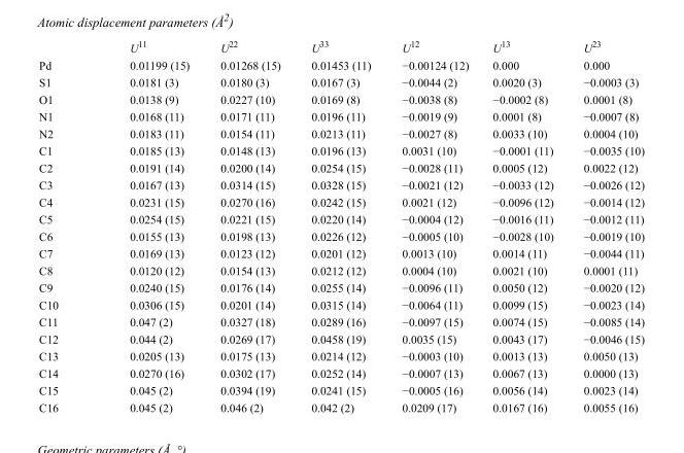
<table><thead><tr><td></td><td>U<sup>11</sup></td><td>U<sup>22</sup></td><td>U<sup>33</sup></td><td>U<sup>12</sup></td><td>U<sup>13</sup></td><td>U<sup>23</sup></td></tr></thead><tbody><tr><td>Pd</td><td>0.01199 (15)</td><td>0.01268 (15)</td><td>0.01453 (11)</td><td>−0.00124 (12)</td><td>0.000</td><td>0.000</td></tr><tr><td>S1</td><td>0.0181 (3)</td><td>0.0180 (3)</td><td>0.0167 (3)</td><td>−0.0044 (2)</td><td>0.0020 (3)</td><td>−0.0003 (3)</td></tr><tr><td>O1</td><td>0.0138 (9)</td><td>0.0227 (10)</td><td>0.0169 (8)</td><td>−0.0038 (8)</td><td>−0.0002 (8)</td><td>0.0001 (8)</td></tr><tr><td>N1</td><td>0.0168 (11)</td><td>0.0171 (11)</td><td>0.0196 (11)</td><td>−0.0019 (9)</td><td>0.0001 (8)</td><td>−0.0007 (8)</td></tr><tr><td>N2</td><td>0.0183 (11)</td><td>0.0154 (11)</td><td>0.0213 (11)</td><td>−0.0027 (8)</td><td>0.0033 (10)</td><td>0.0004 (10)</td></tr><tr><td>C1</td><td>0.0185 (13)</td><td>0.0148 (13)</td><td>0.0196 (13)</td><td>0.0031 (10)</td><td>−0.0001 (11)</td><td>−0.0035 (10)</td></tr><tr><td>C2</td><td>0.0191 (14)</td><td>0.0200 (14)</td><td>0.0254 (15)</td><td>−0.0028 (11)</td><td>0.0005 (12)</td><td>0.0022 (12)</td></tr><tr><td>C3</td><td>0.0167 (13)</td><td>0.0314 (15)</td><td>0.0328 (15)</td><td>−0.0021 (12)</td><td>−0.0033 (12)</td><td>−0.0026 (12)</td></tr><tr><td>C4</td><td>0.0231 (15)</td><td>0.0270 (16)</td><td>0.0242 (15)</td><td>0.0021 (12)</td><td>−0.0096 (12)</td><td>−0.0014 (12)</td></tr><tr><td>C5</td><td>0.0254 (15)</td><td>0.0221 (15)</td><td>0.0220 (14)</td><td>−0.0004 (12)</td><td>−0.0016 (11)</td><td>−0.0012 (11)</td></tr><tr><td>C6</td><td>0.0155 (13)</td><td>0.0198 (13)</td><td>0.0226 (12)</td><td>−0.0005 (10)</td><td>−0.0028 (10)</td><td>−0.0019 (10)</td></tr><tr><td>C7</td><td>0.0169 (13)</td><td>0.0123 (12)</td><td>0.0201 (12)</td><td>0.0013 (10)</td><td>0.0014 (11)</td><td>−0.0044 (11)</td></tr><tr><td>C8</td><td>0.0120 (12)</td><td>0.0154 (13)</td><td>0.0212 (12)</td><td>0.0004 (10)</td><td>0.0021 (10)</td><td>0.0001 (11)</td></tr><tr><td>C9</td><td>0.0240 (15)</td><td>0.0176 (14)</td><td>0.0255 (14)</td><td>−0.0096 (11)</td><td>0.0050 (12)</td><td>−0.0020 (12)</td></tr><tr><td>C10</td><td>0.0306 (15)</td><td>0.0201 (14)</td><td>0.0315 (14)</td><td>−0.0064 (11)</td><td>0.0099 (15)</td><td>−0.0023 (14)</td></tr><tr><td>C11</td><td>0.047 (2)</td><td>0.0327 (18)</td><td>0.0289 (16)</td><td>−0.0097 (15)</td><td>0.0074 (15)</td><td>−0.0085 (14)</td></tr><tr><td>C12</td><td>0.044 (2)</td><td>0.0269 (17)</td><td>0.0458 (19)</td><td>0.0035 (15)</td><td>0.0043 (17)</td><td>−0.0046 (15)</td></tr><tr><td>C13</td><td>0.0205 (13)</td><td>0.0175 (13)</td><td>0.0214 (12)</td><td>−0.0003 (10)</td><td>0.0013 (13)</td><td>0.0050 (13)</td></tr><tr><td>C14</td><td>0.0270 (16)</td><td>0.0302 (17)</td><td>0.0252 (14)</td><td>−0.0007 (13)</td><td>0.0067 (13)</td><td>0.0000 (13)</td></tr><tr><td>C15</td><td>0.045 (2)</td><td>0.0394 (19)</td><td>0.0241 (15)</td><td>−0.0005 (16)</td><td>0.0056 (14)</td><td>0.0023 (14)</td></tr><tr><td>C16</td><td>0.045 (2)</td><td>0.046 (2)</td><td>0.042 (2)</td><td>0.0209 (17)</td><td>0.0167 (16)</td><td>0.0055 (16)</td></tr></tbody></table>